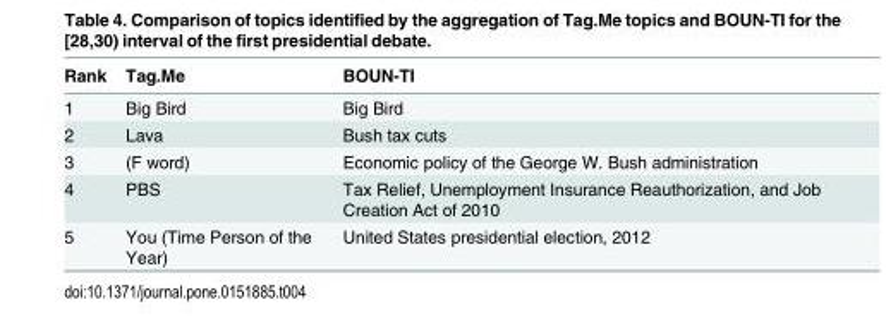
<table><thead><tr><td>Rank</td><td>Tag.Me</td><td>BOUN-TI</td></tr></thead><tbody><tr><td>1</td><td>Big Bird</td><td>Big Bird</td></tr><tr><td>2</td><td>Lava</td><td>Bush tax cuts</td></tr><tr><td>3</td><td>(F word)</td><td>Economic policy of the George W. Bush administration</td></tr><tr><td>4</td><td>PBS</td><td>Tax Relief, Unemployment Insurance Reauthorization, and Job Creation Act of 2010</td></tr><tr><td>5</td><td>You (Time Person of the Year)</td><td>United States presidential election, 2012</td></tr></tbody></table>